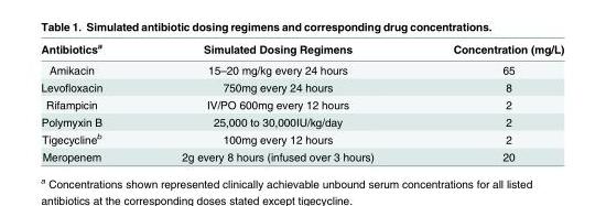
<table><thead><tr><td>Antibiotics<sup>a</sup></td><td>Simulated Dosing Regimens</td><td>Concentration (mg/L)</td></tr></thead><tbody><tr><td>Amikacin</td><td>15–20 mg/kg every 24 hours</td><td>65</td></tr><tr><td>Levofloxacin</td><td>750mg every 24 hours</td><td>8</td></tr><tr><td>Rifampicin</td><td>IV/PO 600mg every 12 hours</td><td>2</td></tr><tr><td>Polymyxin B</td><td>25,000 to 30,000IU/kg/day</td><td>2</td></tr><tr><td>Tigecycline<sup>b</sup></td><td>100mg every 12 hours</td><td>2</td></tr><tr><td>Meropenem</td><td>2g every 8 hours (infused over 3 hours)</td><td>20</td></tr></tbody></table>